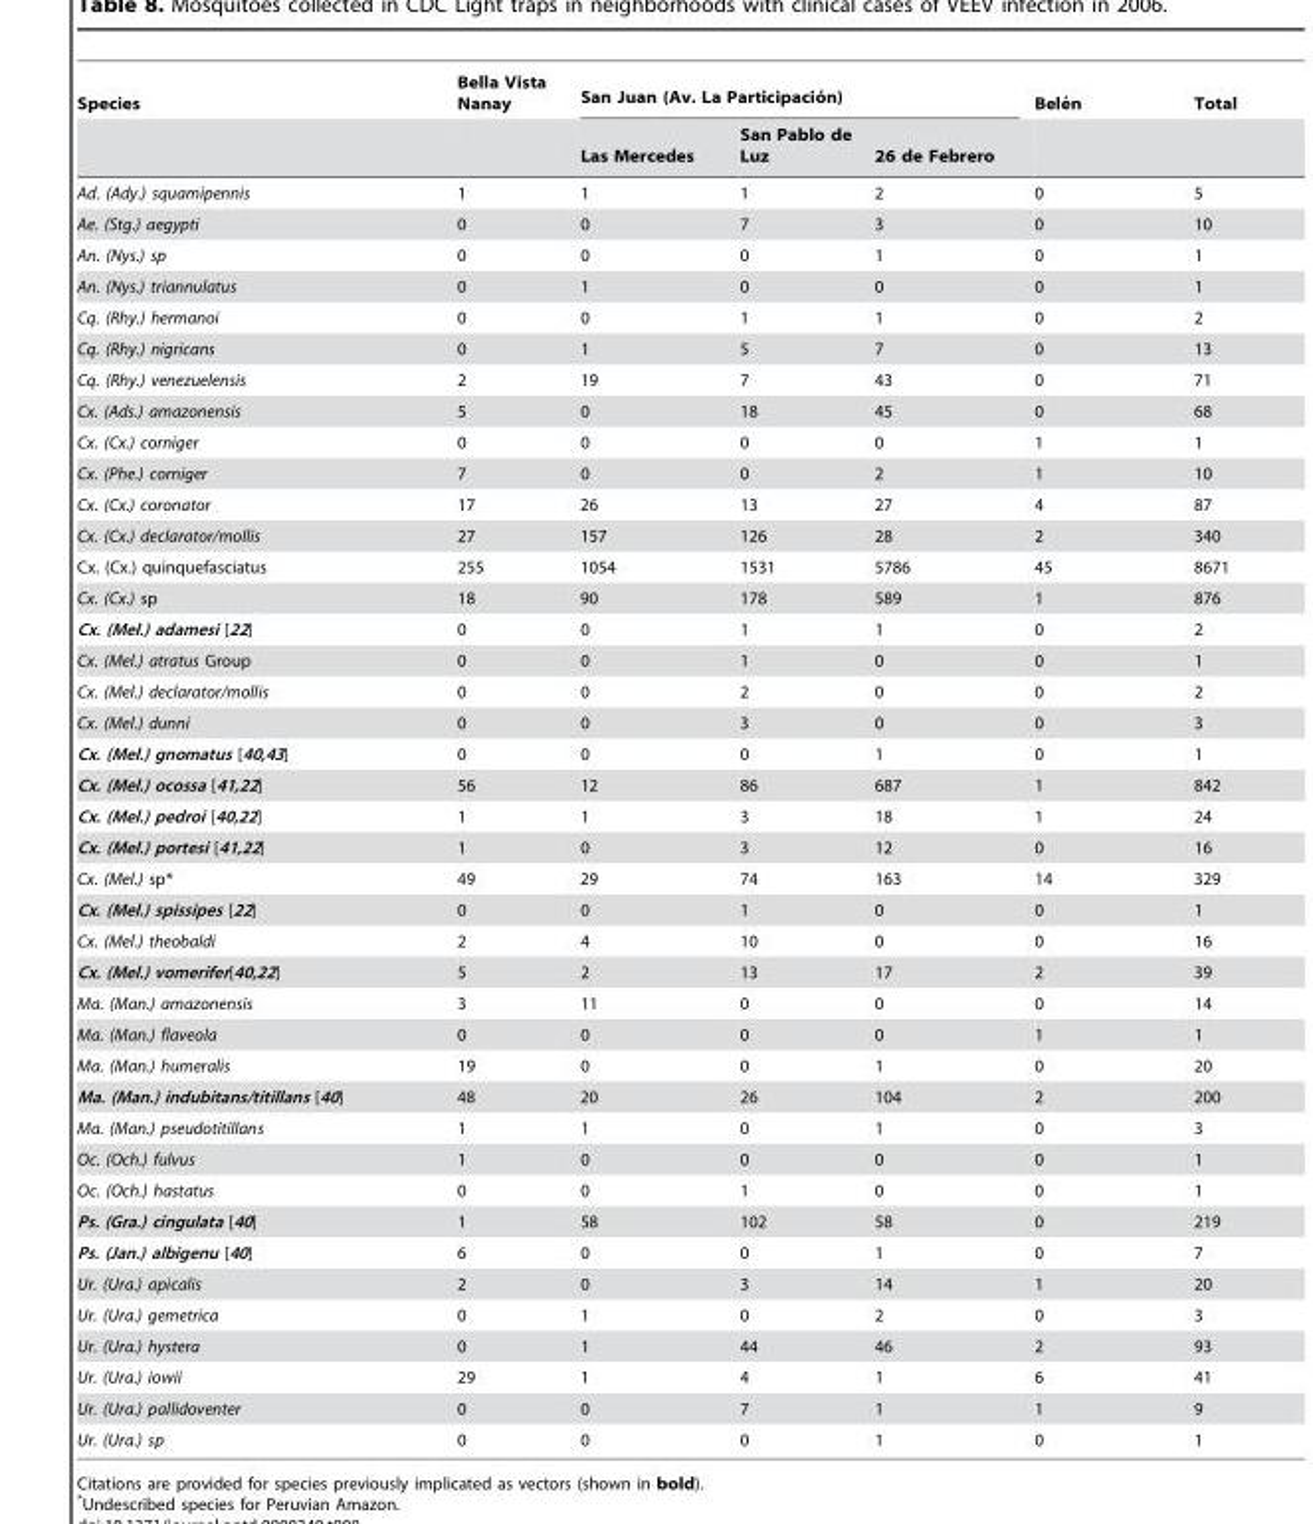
<table><thead><tr><td rowspan="2">Species</td><td rowspan="2">Bella Vista Nanay</td><td colspan="3">San Juan (Av. La Participacio´ n)</td><td rowspan="2">Bele´n</td><td rowspan="2">Total</td></tr><tr><td>Las Mercedes</td><td>San Pablo de Luz</td><td>26 de Febrero</td></tr></thead><tbody><tr><td>Ad. (Ady.) squamipennis</td><td>1</td><td>1</td><td>1</td><td>2</td><td>0</td><td>5</td></tr><tr><td>Ae. (Stg.) aegypti</td><td>0</td><td>0</td><td>7</td><td>3</td><td>0</td><td>10</td></tr><tr><td>An. (Nys.) sp</td><td>0</td><td>0</td><td>0</td><td>1</td><td>0</td><td>1</td></tr><tr><td>An. (Nys.) triannulatus</td><td>0</td><td>1</td><td>0</td><td>0</td><td>0</td><td>1</td></tr><tr><td>Cq. (Rhy.) hermanoi</td><td>0</td><td>0</td><td>1</td><td>1</td><td>0</td><td>2</td></tr><tr><td>Cq. (Rhy.) nigricans</td><td>0</td><td>1</td><td>5</td><td>7</td><td>0</td><td>13</td></tr><tr><td>Cq. (Rhy.) venezuelensis</td><td>2</td><td>19</td><td>7</td><td>43</td><td>0</td><td>71</td></tr><tr><td>Cx. (Ads.) amazonensis</td><td>5</td><td>0</td><td>18</td><td>45</td><td>0</td><td>68</td></tr><tr><td>Cx. (Cx.) corniger</td><td>0</td><td>0</td><td>0</td><td>0</td><td>1</td><td>1</td></tr><tr><td>Cx. (Phe.) corniger</td><td>7</td><td>0</td><td>0</td><td>2</td><td>1</td><td>10</td></tr><tr><td>Cx. (Cx.) coronator</td><td>17</td><td>26</td><td>13</td><td>27</td><td>4</td><td>87</td></tr><tr><td>Cx. (Cx.) declarator/mollis</td><td>27</td><td>157</td><td>126</td><td>28</td><td>2</td><td>340</td></tr><tr><td>Cx. (Cx.) quinquefasciatus</td><td>255</td><td>1054</td><td>1531</td><td>5786</td><td>45</td><td>8671</td></tr><tr><td>Cx. (Cx.) sp</td><td>18</td><td>90</td><td>178</td><td>589</td><td>1</td><td>876</td></tr><tr><td>Cx. (Mel.) adamesi [22]</td><td>0</td><td>0</td><td>1</td><td>1</td><td>0</td><td>2</td></tr><tr><td>Cx. (Mel.) atratus Group</td><td>0</td><td>0</td><td>1</td><td>0</td><td>0</td><td>1</td></tr><tr><td>Cx. (Mel.) declarator/mollis</td><td>0</td><td>0</td><td>2</td><td>0</td><td>0</td><td>2</td></tr><tr><td>Cx. (Mel.) dunni</td><td>0</td><td>0</td><td>3</td><td>0</td><td>0</td><td>3</td></tr><tr><td>Cx. (Mel.) gnomatus [40,43]</td><td>0</td><td>0</td><td>0</td><td>1</td><td>0</td><td>1</td></tr><tr><td>Cx. (Mel.) ocossa [41,22]</td><td>56</td><td>12</td><td>86</td><td>687</td><td>1</td><td>842</td></tr><tr><td>Cx. (Mel.) pedroi [40,22]</td><td>1</td><td>1</td><td>3</td><td>18</td><td>1</td><td>24</td></tr><tr><td>Cx. (Mel.) portesi [41,22]</td><td>1</td><td>0</td><td>3</td><td>12</td><td>0</td><td>16</td></tr><tr><td>Cx. (Mel.) sp*</td><td>49</td><td>29</td><td>74</td><td>163</td><td>14</td><td>329</td></tr><tr><td>Cx. (Mel.) spissipes [22]</td><td>0</td><td>0</td><td>1</td><td>0</td><td>0</td><td>1</td></tr><tr><td>Cx. (Mel.) theobaldi</td><td>2</td><td>4</td><td>10</td><td>0</td><td>0</td><td>16</td></tr><tr><td>Cx. (Mel.) vomerifer[40,22]</td><td>5</td><td>2</td><td>13</td><td>17</td><td>2</td><td>39</td></tr><tr><td>Ma. (Man.) amazonensis</td><td>3</td><td>11</td><td>0</td><td>0</td><td>0</td><td>14</td></tr><tr><td>Ma. (Man.) flaveola</td><td>0</td><td>0</td><td>0</td><td>0</td><td>1</td><td>1</td></tr><tr><td>Ma. (Man.) humeralis</td><td>19</td><td>0</td><td>0</td><td>1</td><td>0</td><td>20</td></tr><tr><td>Ma. (Man.) indubitans/titillans [40]</td><td>48</td><td>20</td><td>26</td><td>104</td><td>2</td><td>200</td></tr><tr><td>Ma. (Man.) pseudotitillans</td><td>1</td><td>1</td><td>0</td><td>1</td><td>0</td><td>3</td></tr><tr><td>Oc. (Och.) fulvus</td><td>1</td><td>0</td><td>0</td><td>0</td><td>0</td><td>1</td></tr><tr><td>Oc. (Och.) hastatus</td><td>0</td><td>0</td><td>1</td><td>0</td><td>0</td><td>1</td></tr><tr><td>Ps. (Gra.) cingulata [40]</td><td>1</td><td>58</td><td>102</td><td>58</td><td>0</td><td>219</td></tr><tr><td>Ps. (Jan.) albigenu [40]</td><td>6</td><td>0</td><td>0</td><td>1</td><td>0</td><td>7</td></tr><tr><td>Ur. (Ura.) apicalis</td><td>2</td><td>0</td><td>3</td><td>14</td><td>1</td><td>20</td></tr><tr><td>Ur. (Ura.) gemetrica</td><td>0</td><td>1</td><td>0</td><td>2</td><td>0</td><td>3</td></tr><tr><td>Ur. (Ura.) hystera</td><td>0</td><td>1</td><td>44</td><td>46</td><td>2</td><td>93</td></tr><tr><td>Ur. (Ura.) iowii</td><td>29</td><td>1</td><td>4</td><td>1</td><td>6</td><td>41</td></tr><tr><td>Ur. (Ura.) pallidoventer</td><td>0</td><td>0</td><td>7</td><td>1</td><td>1</td><td>9</td></tr><tr><td>Ur. (Ura.) sp</td><td>0</td><td>0</td><td>0</td><td>1</td><td>0</td><td>1</td></tr></tbody></table>